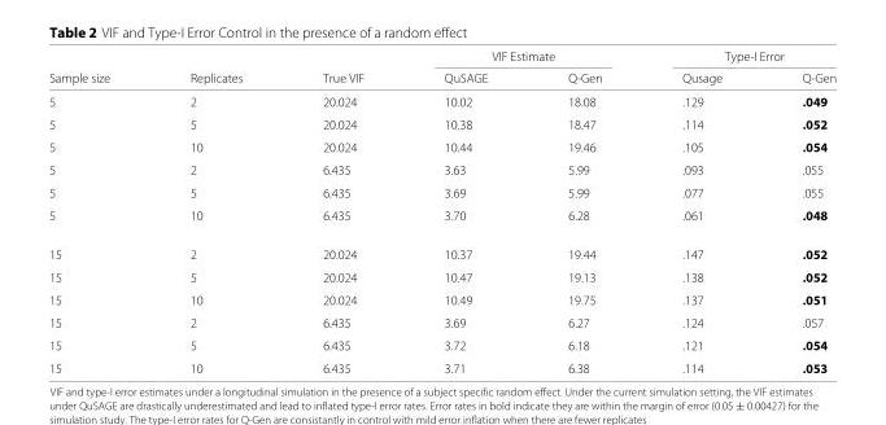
<table><thead><tr><td rowspan="2">Sample size</td><td rowspan="2">Replicates</td><td rowspan="2">True VIF</td><td colspan="2">VIF Estimate</td><td colspan="2">Type-I Error</td></tr><tr><td>QuSAGE</td><td>Q-Gen</td><td>Qusage</td><td>Q-Gen</td></tr></thead><tbody><tr><td>5</td><td>2</td><td>20.024</td><td>10.02</td><td>18.08</td><td>.129</td><td>.049</td></tr><tr><td>5</td><td>5</td><td>20.024</td><td>10.38</td><td>18.47</td><td>.114</td><td>.052</td></tr><tr><td>5</td><td>10</td><td>20.024</td><td>10.44</td><td>19.46</td><td>.105</td><td>.054</td></tr><tr><td>5</td><td>2</td><td>6.435</td><td>3.63</td><td>5.99</td><td>.093</td><td>.055</td></tr><tr><td>5</td><td>5</td><td>6.435</td><td>3.69</td><td>5.99</td><td>.077</td><td>.055</td></tr><tr><td>5</td><td>10</td><td>6.435</td><td>3.70</td><td>6.28</td><td>.061</td><td>.048</td></tr><tr><td>15</td><td>2</td><td>20.024</td><td>10.37</td><td>19.44</td><td>.147</td><td>.052</td></tr><tr><td>15</td><td>5</td><td>20.024</td><td>10.47</td><td>19.13</td><td>.138</td><td>.052</td></tr><tr><td>15</td><td>10</td><td>20.024</td><td>10.49</td><td>19.75</td><td>.137</td><td>.051</td></tr><tr><td>15</td><td>2</td><td>6.435</td><td>3.69</td><td>6.27</td><td>.124</td><td>.057</td></tr><tr><td>15</td><td>5</td><td>6.435</td><td>3.72</td><td>6.18</td><td>.121</td><td>.054</td></tr><tr><td>15</td><td>10</td><td>6.435</td><td>3.71</td><td>6.38</td><td>.114</td><td>.053</td></tr></tbody></table>